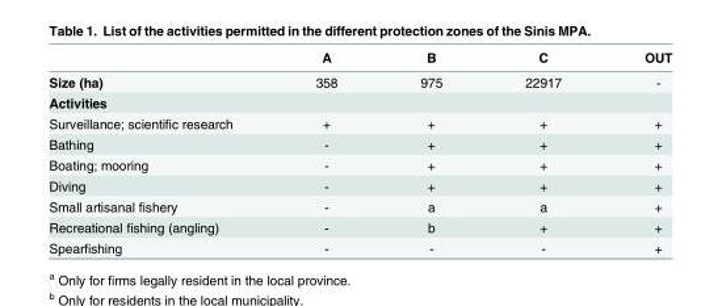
<table><thead><tr><td></td><td>A</td><td>B</td><td>C</td><td>OUT</td></tr></thead><tbody><tr><td>Size (ha)</td><td>358</td><td>975</td><td>22917</td><td>-</td></tr><tr><td colspan="5">Activities</td></tr><tr><td>Surveillance; scientific research</td><td>+</td><td>+</td><td>+</td><td>+</td></tr><tr><td>Bathing</td><td>-</td><td>+</td><td>+</td><td>+</td></tr><tr><td>Boating; mooring</td><td>-</td><td>+</td><td>+</td><td>+</td></tr><tr><td>Diving</td><td>-</td><td>+</td><td>+</td><td>+</td></tr><tr><td>Small artisanal fishery</td><td>-</td><td>a</td><td>a</td><td>+</td></tr><tr><td>Recreational fishing (angling)</td><td>-</td><td>b</td><td>+</td><td>+</td></tr><tr><td>Spearfishing</td><td>-</td><td>-</td><td>-</td><td>+</td></tr></tbody></table>